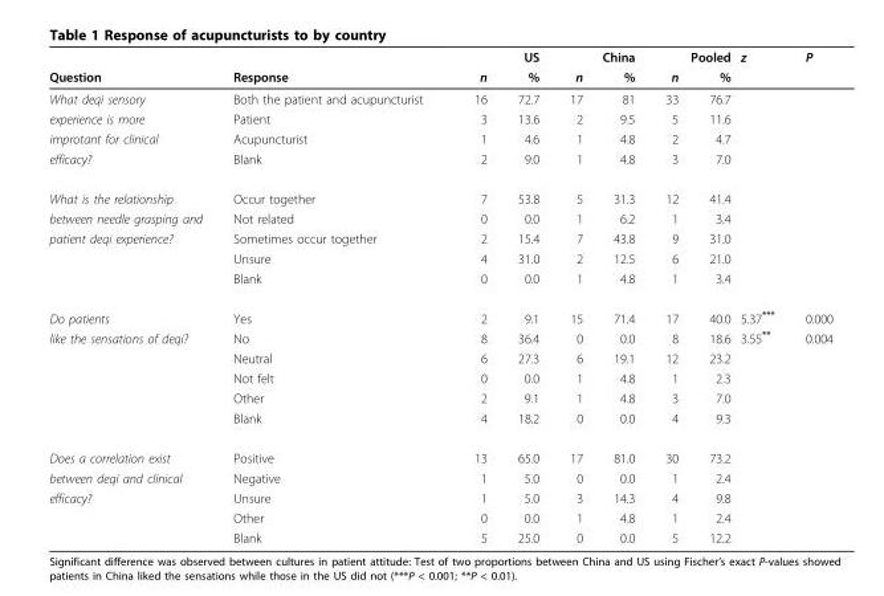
<table><thead><tr><td rowspan="2">Question</td><td rowspan="2">Response</td><td colspan="2">US</td><td colspan="2">China</td><td colspan="2">Pooled</td><td rowspan="2">z</td><td rowspan="2">P</td></tr><tr><td>n</td><td>%</td><td>n</td><td>%</td><td>n</td><td>%</td></tr></thead><tbody><tr><td>What deqi sensory</td><td>Both the patient and acupuncturist</td><td>16</td><td>72.7</td><td>17</td><td>81</td><td>33</td><td>76.7</td><td></td><td></td></tr><tr><td>experience is more</td><td>Patient</td><td>3</td><td>13.6</td><td>2</td><td>9.5</td><td>5</td><td>11.6</td><td></td><td></td></tr><tr><td>improtant for clinical</td><td>Acupuncturist</td><td>1</td><td>4.6</td><td>1</td><td>4.8</td><td>2</td><td>4.7</td><td></td><td></td></tr><tr><td>efficacy?</td><td>Blank</td><td>2</td><td>9.0</td><td>1</td><td>4.8</td><td>3</td><td>7.0</td><td></td><td></td></tr><tr><td>What is the relationship</td><td>Occur together</td><td>7</td><td>53.8</td><td>5</td><td>31.3</td><td>12</td><td>41.4</td><td></td><td></td></tr><tr><td>between needle grasping and</td><td>Not related</td><td>0</td><td>0.0</td><td>1</td><td>6.2</td><td>1</td><td>3.4</td><td></td><td></td></tr><tr><td rowspan="3">patient deqi experience?</td><td>Sometimes occur together</td><td>2</td><td>15.4</td><td>7</td><td>43.8</td><td>9</td><td>31.0</td><td></td><td></td></tr><tr><td>Unsure</td><td>4</td><td>31.0</td><td>2</td><td>12.5</td><td>6</td><td>21.0</td><td></td><td></td></tr><tr><td>Blank</td><td>0</td><td>0.0</td><td>1</td><td>4.8</td><td>1</td><td>3.4</td><td></td><td></td></tr><tr><td>Do patients</td><td>Yes</td><td>2</td><td>9.1</td><td>15</td><td>71.4</td><td>17</td><td>40.0</td><td>5.37***</td><td>0.000</td></tr><tr><td rowspan="5">like the sensations of deqi?</td><td>No</td><td>8</td><td>36.4</td><td>0</td><td>0.0</td><td>8</td><td>18.6</td><td>3.55**</td><td>0.004</td></tr><tr><td>Neutral</td><td>6</td><td>27.3</td><td>6</td><td>19.1</td><td>12</td><td>23.2</td><td></td><td></td></tr><tr><td>Not felt</td><td>0</td><td>0.0</td><td>1</td><td>4.8</td><td>1</td><td>2.3</td><td></td><td></td></tr><tr><td>Other</td><td>2</td><td>9.1</td><td>1</td><td>4.8</td><td>3</td><td>7.0</td><td></td><td></td></tr><tr><td>Blank</td><td>4</td><td>18.2</td><td>0</td><td>0.0</td><td>4</td><td>9.3</td><td></td><td></td></tr><tr><td>Does a correlation exist</td><td>Positive</td><td>13</td><td>65.0</td><td>17</td><td>81.0</td><td>30</td><td>73.2</td><td></td><td></td></tr><tr><td>between deqi and clinical</td><td>Negative</td><td>1</td><td>5.0</td><td>0</td><td>0.0</td><td>1</td><td>2.4</td><td></td><td></td></tr><tr><td rowspan="3">efficacy?</td><td>Unsure</td><td>1</td><td>5.0</td><td>3</td><td>14.3</td><td>4</td><td>9.8</td><td></td><td></td></tr><tr><td>Other</td><td>0</td><td>0.0</td><td>1</td><td>4.8</td><td>1</td><td>2.4</td><td></td><td></td></tr><tr><td>Blank</td><td>5</td><td>25.0</td><td>0</td><td>0.0</td><td>5</td><td>12.2</td><td></td><td></td></tr></tbody></table>